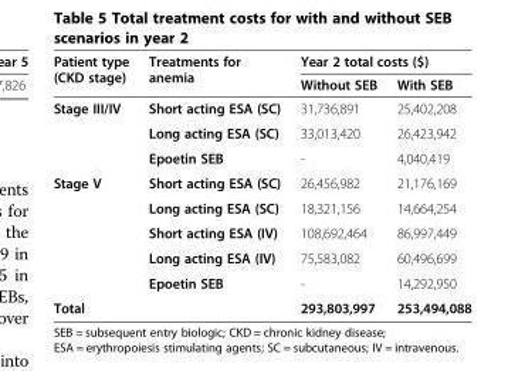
<table><thead><tr><td rowspan="2">Patient type (CKD stage)</td><td rowspan="2">Treatments for anemia</td><td colspan="2">Year 2 total costs ($)</td></tr><tr><td>Without SEB</td><td>With SEB</td></tr></thead><tbody><tr><td rowspan="3">Stage III/IV</td><td>Short acting ESA (SC)</td><td>31,736,891</td><td>25,402,208</td></tr><tr><td>Long acting ESA (SC)</td><td>33,013,420</td><td>26,423,942</td></tr><tr><td>Epoetin SEB</td><td>-</td><td>4,040,419</td></tr><tr><td rowspan="5">Stage V</td><td>Short acting ESA (SC)</td><td>26,456,982</td><td>21,176,169</td></tr><tr><td>Long acting ESA (SC)</td><td>18,321,156</td><td>14,664,254</td></tr><tr><td>Short acting ESA (IV)</td><td>108,692,464</td><td>86,997,449</td></tr><tr><td>Long acting ESA (IV)</td><td>75,583,082</td><td>60,496,699</td></tr><tr><td>Epoetin SEB</td><td>-</td><td>14,292,950</td></tr><tr><td colspan="2">Total</td><td>293,803,997</td><td>253,494,088</td></tr></tbody></table>